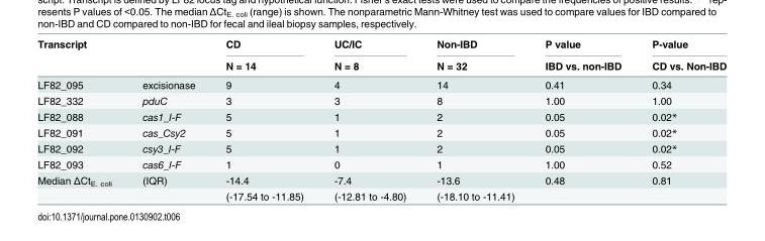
<table><thead><tr><td rowspan="2">Transcript</td><td rowspan="2"></td><td rowspan="2">CD N = 14</td><td rowspan="2">UC/IC N = 8</td><td rowspan="2">Non-IBD N = 32</td><td rowspan="2">P value IBD vs. non-IBD</td><td rowspan="2">P-value CD vs. Non-IBD</td></tr><tr></tr></thead><tbody><tr><td>LF82_095</td><td>excisionase</td><td>9</td><td>4</td><td>14</td><td>0.41</td><td>0.34</td></tr><tr><td>LF82_332</td><td>pduC</td><td>3</td><td>3</td><td>8</td><td>1.00</td><td>1.00</td></tr><tr><td>LF82_088</td><td>cas1_I-F</td><td>5</td><td>1</td><td>2</td><td>0.05</td><td>0.02*</td></tr><tr><td>LF82_091</td><td>cas_Csy2</td><td>5</td><td>1</td><td>2</td><td>0.05</td><td>0.02*</td></tr><tr><td>LF82_092</td><td>csy3_I-F</td><td>5</td><td>1</td><td>2</td><td>0.05</td><td>0.02*</td></tr><tr><td>LF82_093</td><td>cas6_I-F</td><td>1</td><td>0</td><td>1</td><td>1.00</td><td>0.52</td></tr><tr><td rowspan="2">Median ΔCt<sub>E. coli</sub></td><td>(IQR)</td><td>-14.4</td><td>-7.4</td><td>-13.6</td><td>0.48</td><td>0.81</td></tr><tr><td></td><td>(-17.54 to -11.85)</td><td>(-12.81 to -4.80)</td><td>(-18.10 to -11.41)</td><td></td><td></td></tr></tbody></table>